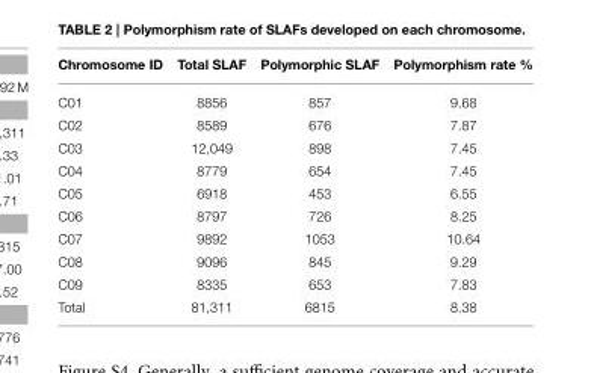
<table><thead><tr><td>Chromosome ID</td><td>Total SLAF</td><td>Polymorphic SLAF</td><td>Polymorphism rate %</td></tr></thead><tbody><tr><td>C01</td><td>8856</td><td>857</td><td>9.68</td></tr><tr><td>C02</td><td>8589</td><td>676</td><td>7.87</td></tr><tr><td>C03</td><td>12,049</td><td>898</td><td>7.45</td></tr><tr><td>C04</td><td>8779</td><td>654</td><td>7.45</td></tr><tr><td>C05</td><td>6918</td><td>453</td><td>6.55</td></tr><tr><td>C06</td><td>8797</td><td>726</td><td>8.25</td></tr><tr><td>C07</td><td>9892</td><td>1053</td><td>10.64</td></tr><tr><td>C08</td><td>9096</td><td>845</td><td>9.29</td></tr><tr><td>C09</td><td>8335</td><td>653</td><td>7.83</td></tr><tr><td>Total</td><td>81,311</td><td>6815</td><td>8.38</td></tr></tbody></table>